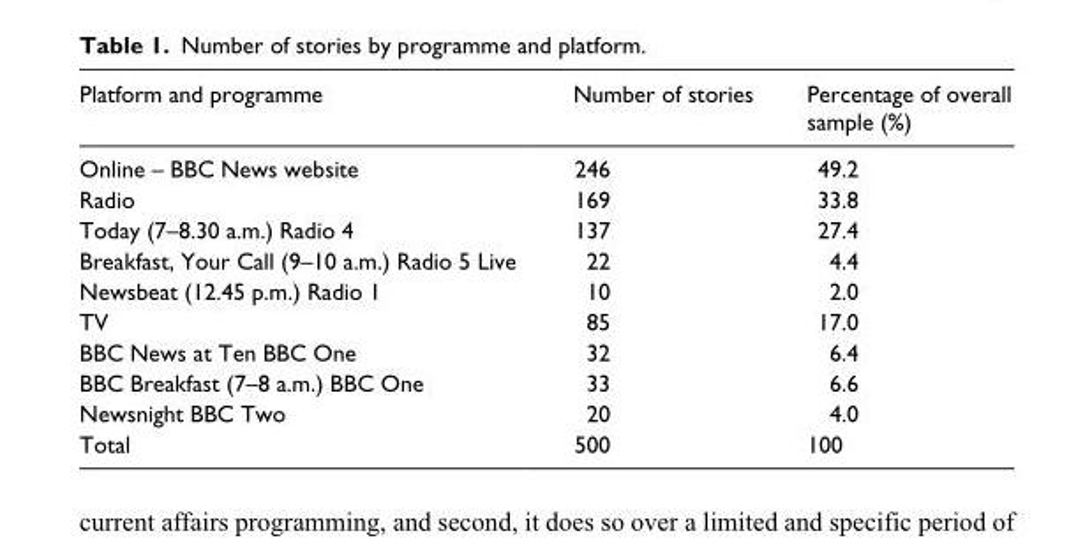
<table><thead><tr><td>Platform and programme</td><td>Number of stories</td><td>Percentage of overall sample (%)</td></tr></thead><tbody><tr><td>Online – BBC News website</td><td>246</td><td>49.2</td></tr><tr><td>Radio</td><td>169</td><td>33.8</td></tr><tr><td>Today (7–8.30 a.m.) Radio 4</td><td>137</td><td>27.4</td></tr><tr><td>Breakfast, Your Call (9–10 a.m.) Radio 5 Live</td><td>22</td><td>4.4</td></tr><tr><td>Newsbeat (12.45 p.m.) Radio 1</td><td>10</td><td>2.0</td></tr><tr><td>TV</td><td>85</td><td>17.0</td></tr><tr><td>BBC News at Ten BBC One</td><td>32</td><td>6.4</td></tr><tr><td>BBC Breakfast (7–8 a.m.) BBC One</td><td>33</td><td>6.6</td></tr><tr><td>Newsnight BBC Two</td><td>20</td><td>4.0</td></tr><tr><td>Total</td><td>500</td><td>100</td></tr></tbody></table>